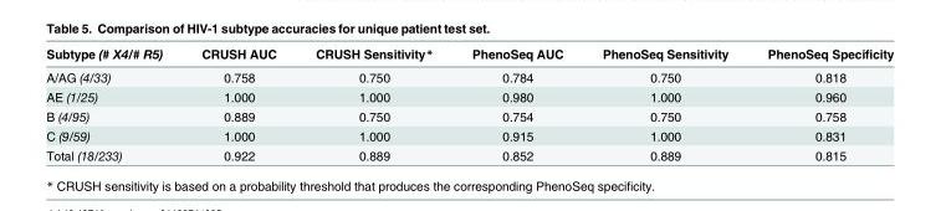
<table><thead><tr><td>Subtype (# X4/# R5)</td><td>CRUSH AUC</td><td>CRUSH Sensitivity*</td><td>PhenoSeq AUC</td><td>PhenoSeq Sensitivity</td><td>PhenoSeq Specificity</td></tr></thead><tbody><tr><td>A/AG (4/33)</td><td>0.758</td><td>0.750</td><td>0.784</td><td>0.750</td><td>0.818</td></tr><tr><td>AE (1/25)</td><td>1.000</td><td>1.000</td><td>0.980</td><td>1.000</td><td>0.960</td></tr><tr><td>B (4/95)</td><td>0.889</td><td>0.750</td><td>0.754</td><td>0.750</td><td>0.758</td></tr><tr><td>C (9/59)</td><td>1.000</td><td>1.000</td><td>0.915</td><td>1.000</td><td>0.831</td></tr><tr><td>Total (18/233)</td><td>0.922</td><td>0.889</td><td>0.852</td><td>0.889</td><td>0.815</td></tr></tbody></table>